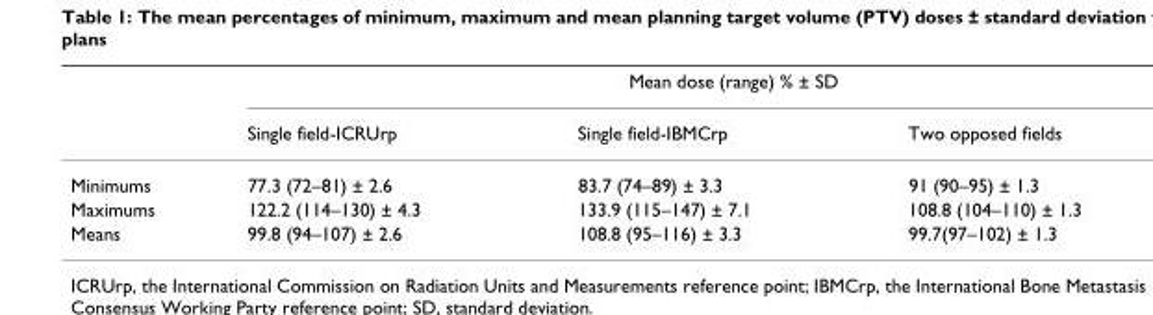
<table><thead><tr><td rowspan="2"></td><td colspan="3">Mean dose (range) % ± SD</td></tr><tr><td>Single field-ICRUrp</td><td>Single field-IBMCrp</td><td>Two opposed fields</td></tr></thead><tbody><tr><td>Minimums</td><td>77.3 (72–81) ± 2.6</td><td>83.7 (74–89) ± 3.3</td><td>91 (90–95) ± 1.3</td></tr><tr><td>Maximums</td><td>122.2 (114–130) ± 4.3</td><td>133.9 (115–147) ± 7.1</td><td>108.8 (104–110) ± 1.3</td></tr><tr><td>Means</td><td>99.8 (94–107) ± 2.6</td><td>108.8 (95–116) ± 3.3</td><td>99.7(97–102) ± 1.3</td></tr></tbody></table>